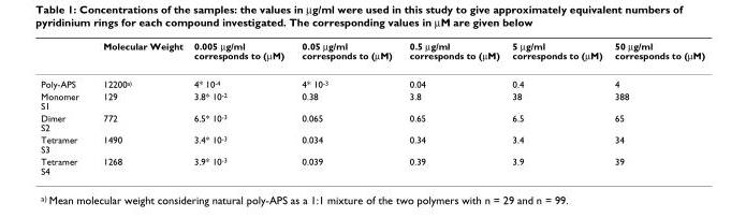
<table><thead><tr><td></td><td>Molecular Weight</td><td>0.005 μg/ml corresponds to (μM)</td><td>0.05 μg/ml corresponds to (μM)</td><td>0.5 μg/ml corresponds to (μM)</td><td>5 μg/ml corresponds to (μM)</td><td>50 μg/ml corresponds to (μM)</td></tr></thead><tbody><tr><td>Poly-APS</td><td>12200<sup>a)</sup></td><td>4* 10<sup>-4</sup></td><td>4* 10<sup>-3</sup></td><td>0.04</td><td>0.4</td><td>4</td></tr><tr><td>Monomer S1</td><td>129</td><td>3.8* 10<sup>-2</sup></td><td>0.38</td><td>3.8</td><td>38</td><td>388</td></tr><tr><td>Dimer S2</td><td>772</td><td>6.5* 10<sup>-3</sup></td><td>0.065</td><td>0.65</td><td>6.5</td><td>65</td></tr><tr><td>Tetramer S3</td><td>1490</td><td>3.4* 10<sup>-3</sup></td><td>0.034</td><td>0.34</td><td>3.4</td><td>34</td></tr><tr><td>Tetramer S4</td><td>1268</td><td>3.9* 10<sup>-3</sup></td><td>0.039</td><td>0.39</td><td>3.9</td><td>39</td></tr></tbody></table>